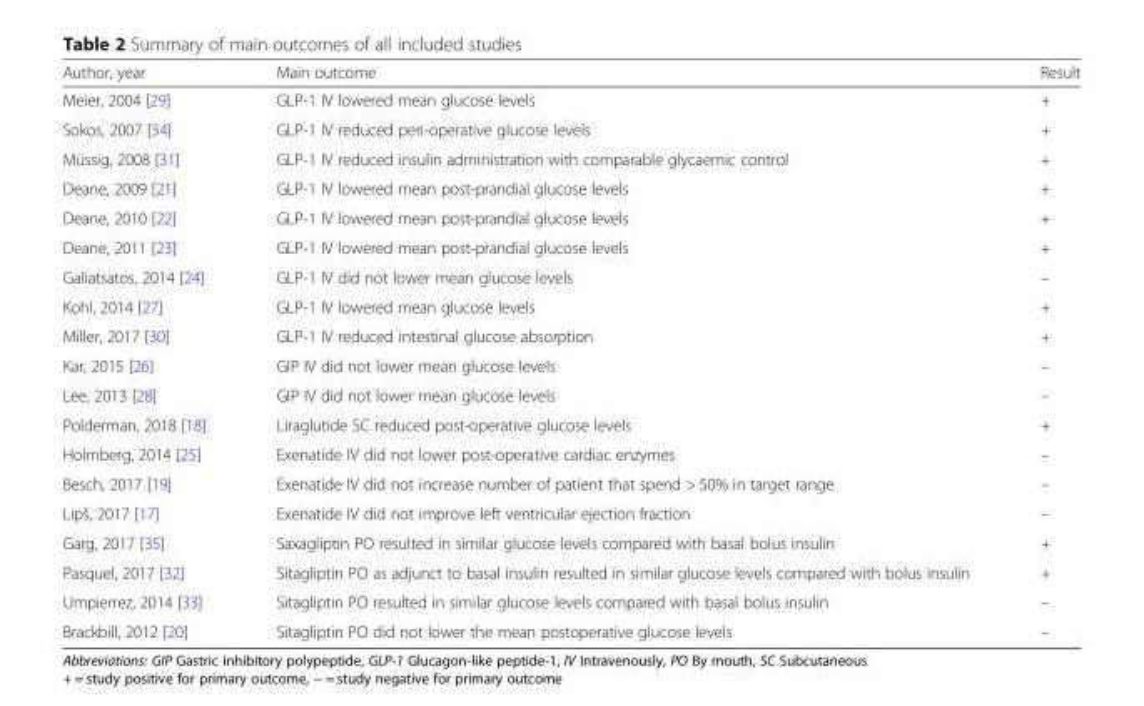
<table><thead><tr><td>Author, year</td><td>Main outcome</td><td>Result</td></tr></thead><tbody><tr><td>Meier, 2004 [29]</td><td>GLP-1 IV lowered mean glucose levels</td><td>+</td></tr><tr><td>Sokos, 2007 [34]</td><td>GLP-1 IV reduced peri-operative glucose levels</td><td>+</td></tr><tr><td>Müssig, 2008 [31]</td><td>GLP-1 IV reduced insulin administration with comparable glycaemic control</td><td>+</td></tr><tr><td>Deane, 2009 [21]</td><td>GLP-1 IV lowered mean post-prandial glucose levels</td><td>+</td></tr><tr><td>Deane, 2010 [22]</td><td>GLP-1 IV lowered mean post-prandial glucose levels</td><td>+</td></tr><tr><td>Deane, 2011 [23]</td><td>GLP-1 IV lowered mean post-prandial glucose levels</td><td>+</td></tr><tr><td>Galiatsatos, 2014 [24]</td><td>GLP-1 IV did not lower mean glucose levels</td><td>–</td></tr><tr><td>Kohl, 2014 [27]</td><td>GLP-1 IV lowered mean glucose levels</td><td>+</td></tr><tr><td>Miller, 2017 [30]</td><td>GLP-1 IV reduced intestinal glucose absorption</td><td>+</td></tr><tr><td>Kar, 2015 [26]</td><td>GIP IV did not lower mean glucose levels</td><td>–</td></tr><tr><td>Lee, 2013 [28]</td><td>GIP IV did not lower mean glucose levels</td><td>–</td></tr><tr><td>Polderman, 2018 [18]</td><td>Liraglutide SC reduced post-operative glucose levels</td><td>+</td></tr><tr><td>Holmberg, 2014 [25]</td><td>Exenatide IV did not lower post-operative cardiac enzymes</td><td>–</td></tr><tr><td>Besch, 2017 [19]</td><td>Exenatide IV did not increase number of patient that spend &gt; 50% in target range</td><td>–</td></tr><tr><td>Lipš, 2017 [17]</td><td>Exenatide IV did not improve left ventricular ejection fraction</td><td>–</td></tr><tr><td>Garg, 2017 [35]</td><td>Saxagliptin PO resulted in similar glucose levels compared with basal bolus insulin</td><td>+</td></tr><tr><td>Pasquel, 2017 [32]</td><td>Sitagliptin PO as adjunct to basal insulin resulted in similar glucose levels compared with bolus insulin</td><td>+</td></tr><tr><td>Umpierrez, 2014 [33]</td><td>Sitagliptin PO resulted in similar glucose levels compared with basal bolus insulin</td><td>–</td></tr><tr><td>Brackbill, 2012 [20]</td><td>Sitagliptin PO did not lower the mean postoperative glucose levels</td><td>–</td></tr></tbody></table>